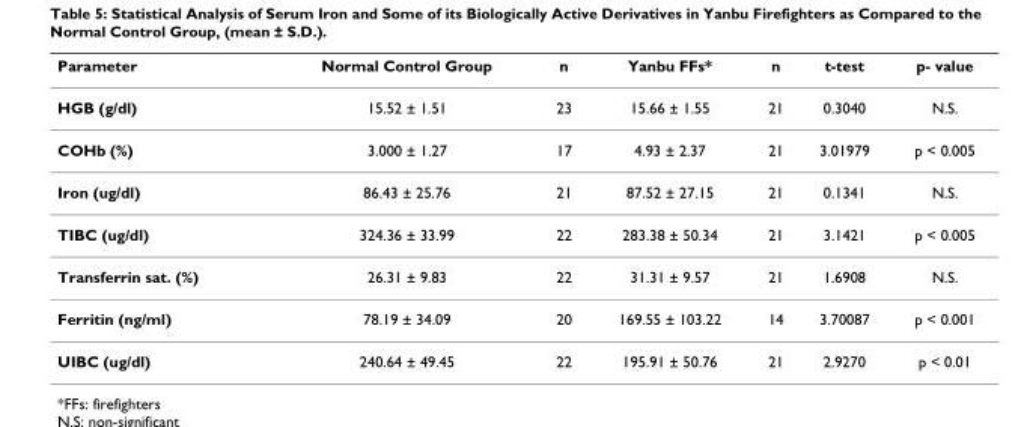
<table><thead><tr><td>Parameter</td><td>Normal Control Group</td><td>n</td><td>Yanbu FFs*</td><td>n</td><td>t-test</td><td>p- value</td></tr></thead><tbody><tr><td>HGB (g/dl)</td><td>15.52 ± 1.51</td><td>23</td><td>15.66 ± 1.55</td><td>21</td><td>0.3040</td><td>N.S.</td></tr><tr><td>COHb (%)</td><td>3.000 ± 1.27</td><td>17</td><td>4.93 ± 2.37</td><td>21</td><td>3.01979</td><td>p &lt; 0.005</td></tr><tr><td>Iron (ug/dl)</td><td>86.43 ± 25.76</td><td>21</td><td>87.52 ± 27.15</td><td>21</td><td>0.1341</td><td>N.S.</td></tr><tr><td>TIBC (ug/dl)</td><td>324.36 ± 33.99</td><td>22</td><td>283.38 ± 50.34</td><td>21</td><td>3.1421</td><td>p &lt; 0.005</td></tr><tr><td>Transferrin sat. (%)</td><td>26.31 ± 9.83</td><td>22</td><td>31.31 ± 9.57</td><td>21</td><td>1.6908</td><td>N.S.</td></tr><tr><td>Ferritin (ng/ml)</td><td>78.19 ± 34.09</td><td>20</td><td>169.55 ± 103.22</td><td>14</td><td>3.70087</td><td>p &lt; 0.001</td></tr><tr><td>UIBC (ug/dl)</td><td>240.64 ± 49.45</td><td>22</td><td>195.91 ± 50.76</td><td>21</td><td>2.9270</td><td>p &lt; 0.01</td></tr></tbody></table>